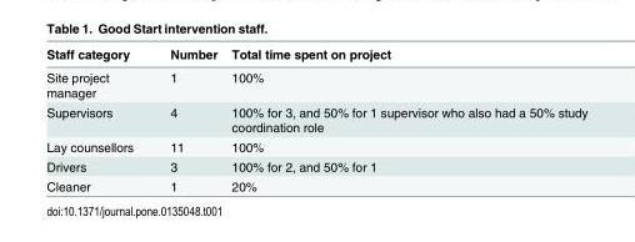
<table><thead><tr><td>Staff category</td><td>Number</td><td>Total time spent on project</td></tr></thead><tbody><tr><td>Site project manager</td><td>1</td><td>100%</td></tr><tr><td>Supervisors</td><td>4</td><td>100% for 3, and 50% for 1 supervisor who also had a 50% study coordination role</td></tr><tr><td>Lay counsellors</td><td>11</td><td>100%</td></tr><tr><td>Drivers</td><td>3</td><td>100% for 2, and 50% for 1</td></tr><tr><td>Cleaner</td><td>1</td><td>20%</td></tr></tbody></table>